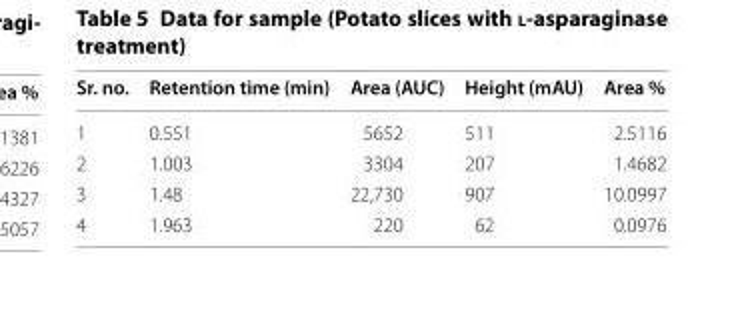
<table><thead><tr><td>Sr. no.</td><td>Retention time (min)</td><td>Area (AUC)</td><td>Height (mAU)</td><td>Area %</td></tr></thead><tbody><tr><td>1</td><td>0.551</td><td>5652</td><td>511</td><td>2.5116</td></tr><tr><td>2</td><td>1.003</td><td>3304</td><td>207</td><td>1.4682</td></tr><tr><td>3</td><td>1.48</td><td>22,730</td><td>907</td><td>10.0997</td></tr><tr><td>4</td><td>1.963</td><td>220</td><td>62</td><td>0.0976</td></tr></tbody></table>